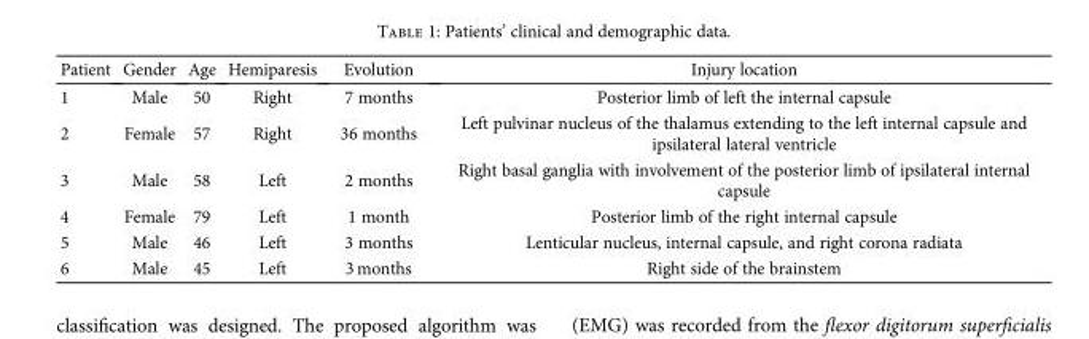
<table><thead><tr><td>Patient</td><td>Gender</td><td>Age</td><td>Hemiparesis</td><td>Evolution</td><td>Injury location</td></tr></thead><tbody><tr><td>1</td><td>Male</td><td>50</td><td>Right</td><td>7 months</td><td>Posterior limb of left the internal capsule</td></tr><tr><td>2</td><td>Female</td><td>57</td><td>Right</td><td>36 months</td><td>Left pulvinar nucleus of the thalamus extending to the left internal capsule and ipsilateral lateral ventricle</td></tr><tr><td>3</td><td>Male</td><td>58</td><td>Left</td><td>2 months</td><td>Right basal ganglia with involvement of the posterior limb of ipsilateral internal capsule</td></tr><tr><td>4</td><td>Female</td><td>79</td><td>Left</td><td>1 month</td><td>Posterior limb of the right internal capsule</td></tr><tr><td>5</td><td>Male</td><td>46</td><td>Left</td><td>3 months</td><td>Lenticular nucleus, internal capsule, and right corona radiata</td></tr><tr><td>6</td><td>Male</td><td>45</td><td>Left</td><td>3 months</td><td>Right side of the brainstem</td></tr></tbody></table>